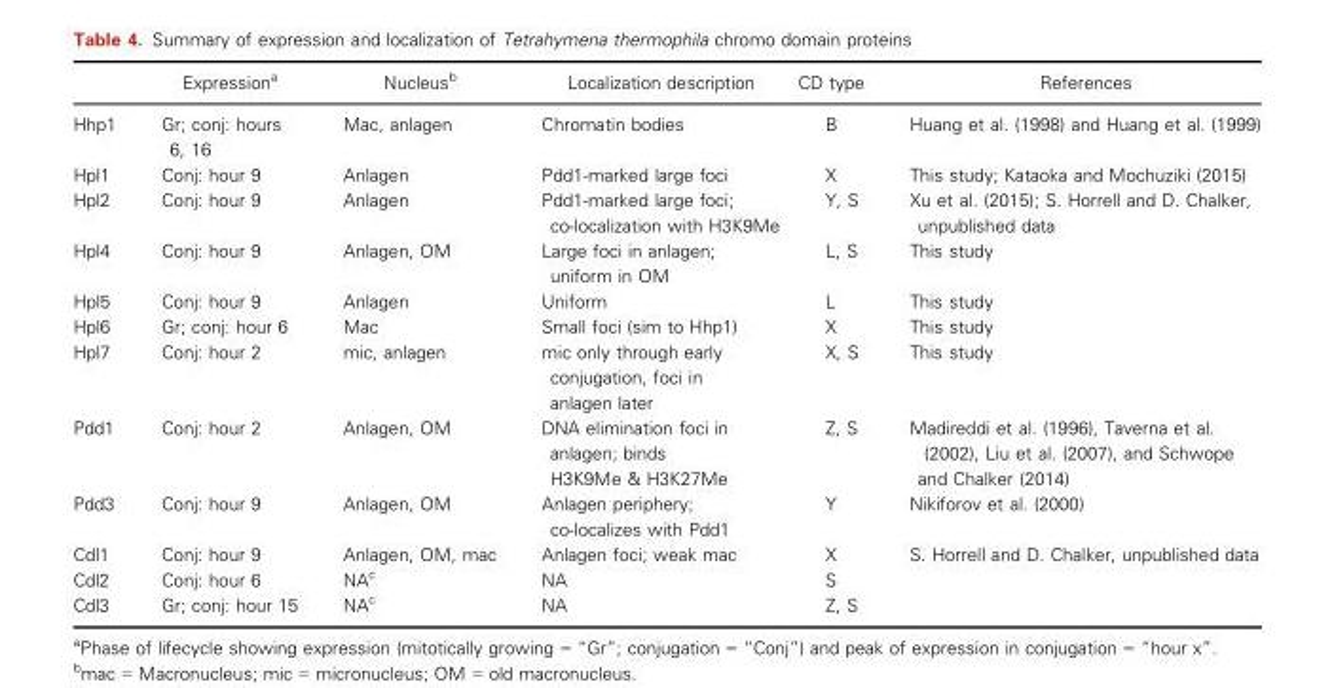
<table><thead><tr><td></td><td>Expression<sup>a</sup></td><td>Nucleus<sup>b</sup></td><td>Localization description</td><td>CD type</td><td>References</td></tr></thead><tbody><tr><td>Hhp1</td><td>Gr; conj: hours 6, 16</td><td>Mac, anlagen</td><td>Chromatin bodies</td><td>B</td><td>Huang et al. (1998) and Huang et al. (1999)</td></tr><tr><td>Hpl1</td><td>Conj: hour 9</td><td>Anlagen</td><td>Pdd1-marked large foci</td><td>X</td><td>This study; Kataoka and Mochuziki (2015)</td></tr><tr><td>Hpl2</td><td>Conj: hour 9</td><td>Anlagen</td><td>Pdd1-marked large foci; co-localization with H3K9Me</td><td>Y, S</td><td>Xu et al. (2015); S. Horrell and D. Chalker, unpublished data</td></tr><tr><td>Hpl4</td><td>Conj: hour 9</td><td>Anlagen, OM</td><td>Large foci in anlagen; uniform in OM</td><td>L, S</td><td>This study</td></tr><tr><td>Hpl5</td><td>Conj: hour 9</td><td>Anlagen</td><td>Uniform</td><td>L</td><td>This study</td></tr><tr><td>Hpl6</td><td>Gr; conj: hour 6</td><td>Mac</td><td>Small foci (sim to Hhp1)</td><td>X</td><td>This study</td></tr><tr><td>Hpl7</td><td>Conj: hour 2</td><td>mic, anlagen</td><td>mic only through early conjugation, foci in anlagen later</td><td>X, S</td><td>This study</td></tr><tr><td>Pdd1</td><td>Conj: hour 2</td><td>Anlagen, OM</td><td>DNA elimination foci in anlagen; binds H3K9Me &amp; H3K27Me</td><td>Z, S</td><td>Madireddi et al. (1996), Taverna et al. (2002), Liu et al. (2007), and Schwope and Chalker (2014)</td></tr><tr><td>Pdd3</td><td>Conj: hour 9</td><td>Anlagen, OM</td><td>Anlagen periphery; co-localizes with Pdd1</td><td>Y</td><td>Nikiforov et al. (2000)</td></tr><tr><td>Cdl1</td><td>Conj: hour 9</td><td>Anlagen, OM, mac</td><td>Anlagen foci; weak mac</td><td>X</td><td>S. Horrell and D. Chalker, unpublished data</td></tr><tr><td>Cdl2</td><td>Conj: hour 6</td><td>NA<sup>c</sup></td><td>NA</td><td>S</td><td></td></tr><tr><td>Cdl3</td><td>Gr; conj: hour 15</td><td>NA<sup>c</sup></td><td>NA</td><td>Z, S</td><td></td></tr></tbody></table>